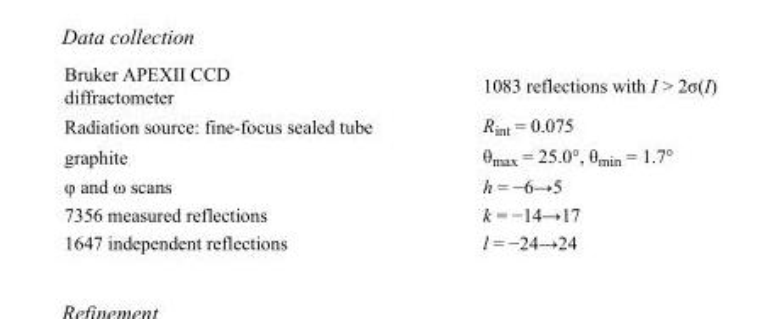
<table><tbody><tr><td>Bruker APEXII CCD diffractometer</td><td>1083 reflections with I &gt; 2σ(I)</td></tr><tr><td>Radiation source: fine-focus sealed tube</td><td>R<sub>int</sub> = 0.075</td></tr><tr><td>graphite</td><td>θ<sub>max</sub> = 25.0°, θ<sub>min</sub> = 1.7°</td></tr><tr><td>φ and ω scans</td><td>h = −6→5</td></tr><tr><td>7356 measured reflections</td><td>k = −14→17</td></tr><tr><td>1647 independent reflections</td><td>l = −24→24</td></tr></tbody></table>